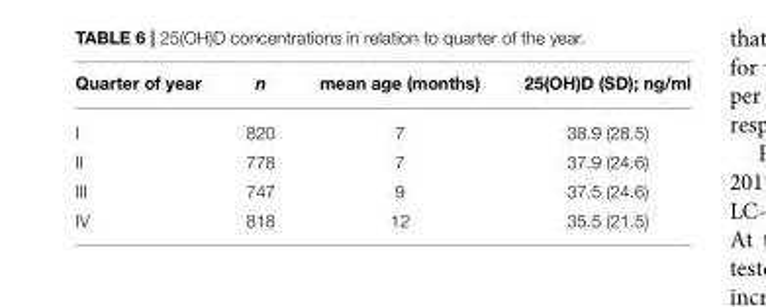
<table><thead><tr><td>Quarter of year</td><td>n</td><td>mean age (months)</td><td>25(OH)D (SD); ng/ml</td></tr></thead><tbody><tr><td>I</td><td>820</td><td>7</td><td>38.9 (28.5)</td></tr><tr><td>II</td><td>778</td><td>7</td><td>37.9 (24.6)</td></tr><tr><td>III</td><td>747</td><td>9</td><td>37.5 (24.6)</td></tr><tr><td>IV</td><td>818</td><td>12</td><td>35.5 (21.5)</td></tr></tbody></table>